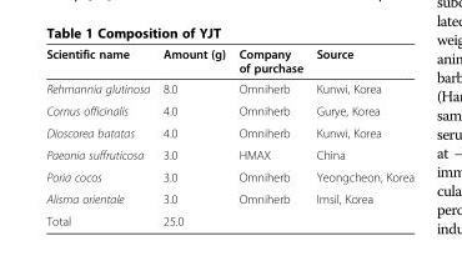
<table><thead><tr><td>Scientific name</td><td>Amount (g)</td><td>Company of purchase</td><td>Source</td></tr></thead><tbody><tr><td>Rehmannia glutinosa</td><td>8.0</td><td>Omniherb</td><td>Kunwi, Korea</td></tr><tr><td>Cornus officinalis</td><td>4.0</td><td>Omniherb</td><td>Gurye, Korea</td></tr><tr><td>Dioscorea batatas</td><td>4.0</td><td>Omniherb</td><td>Kunwi, Korea</td></tr><tr><td>Paeonia suffruticosa</td><td>3.0</td><td>HMAX</td><td>China</td></tr><tr><td>Poria cocos</td><td>3.0</td><td>Omniherb</td><td>Yeongcheon, Korea</td></tr><tr><td>Alisma orientale</td><td>3.0</td><td>Omniherb</td><td>Imsil, Korea</td></tr><tr><td>Total</td><td>25.0</td><td></td><td></td></tr></tbody></table>